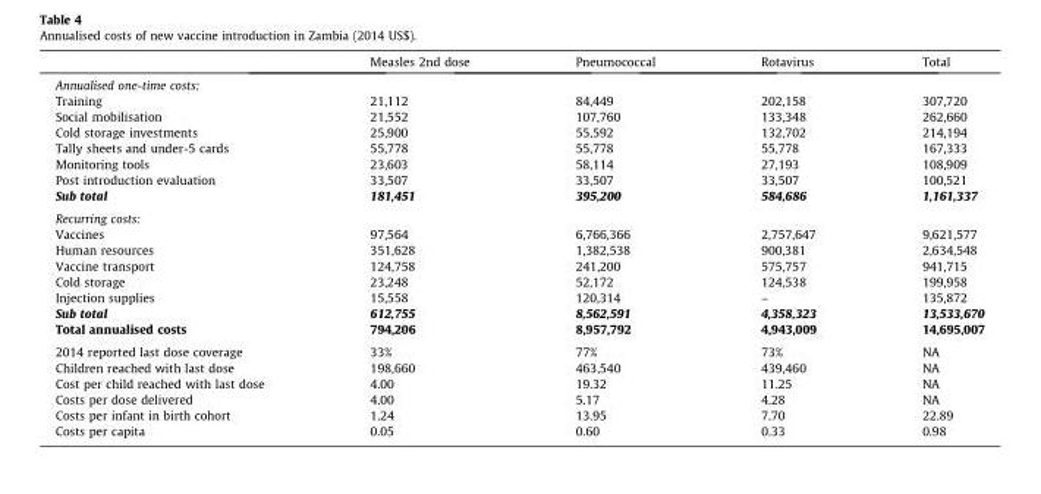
<table><thead><tr><td></td><td>Measles 2nd dose</td><td>Pneumococcal</td><td>Rotavirus</td><td>Total</td></tr></thead><tbody><tr><td colspan="5">Annualised one-time costs:</td></tr><tr><td>Training</td><td>21,112</td><td>84,449</td><td>202,158</td><td>307,720</td></tr><tr><td>Social mobilisation</td><td>21,552</td><td>107,760</td><td>133,348</td><td>262,660</td></tr><tr><td>Cold storage investments</td><td>25,900</td><td>55,592</td><td>132,702</td><td>214,194</td></tr><tr><td>Tally sheets and under-5 cards</td><td>55,778</td><td>55,778</td><td>55,778</td><td>167,333</td></tr><tr><td>Monitoring tools</td><td>23,603</td><td>58,114</td><td>27,193</td><td>108,909</td></tr><tr><td>Post introduction evaluation</td><td>33,507</td><td>33,507</td><td>33,507</td><td>100,521</td></tr><tr><td>Sub total</td><td>181,451</td><td>395,200</td><td>584,686</td><td>1,161,337</td></tr><tr><td colspan="5">Recurring costs:</td></tr><tr><td>Vaccines</td><td>97,564</td><td>6,766,366</td><td>2,757,647</td><td>9,621,577</td></tr><tr><td>Human resources</td><td>351,628</td><td>1,382,538</td><td>900,381</td><td>2,634,548</td></tr><tr><td>Vaccine transport</td><td>124,758</td><td>241,200</td><td>575,757</td><td>941,715</td></tr><tr><td>Cold storage</td><td>23,248</td><td>52,172</td><td>124,538</td><td>199,958</td></tr><tr><td>Injection supplies</td><td>15,558</td><td>120,314</td><td>–</td><td>135,872</td></tr><tr><td>Sub total</td><td>612,755</td><td>8,562,591</td><td>4,358,323</td><td>13,533,670</td></tr><tr><td>Total annualised costs</td><td>794,206</td><td>8,957,792</td><td>4,943,009</td><td>14,695,007</td></tr><tr><td>2014 reported last dose coverage</td><td>33%</td><td>77%</td><td>73%</td><td>NA</td></tr><tr><td>Children reached with last dose</td><td>198,660</td><td>463,540</td><td>439,460</td><td>NA</td></tr><tr><td>Cost per child reached with last dose</td><td>4.00</td><td>19.32</td><td>11.25</td><td>NA</td></tr><tr><td>Costs per dose delivered</td><td>4.00</td><td>5.17</td><td>4.28</td><td>NA</td></tr><tr><td>Costs per infant in birth cohort</td><td>1.24</td><td>13.95</td><td>7.70</td><td>22.89</td></tr><tr><td>Costs per capita</td><td>0.05</td><td>0.60</td><td>0.33</td><td>0.98</td></tr></tbody></table>